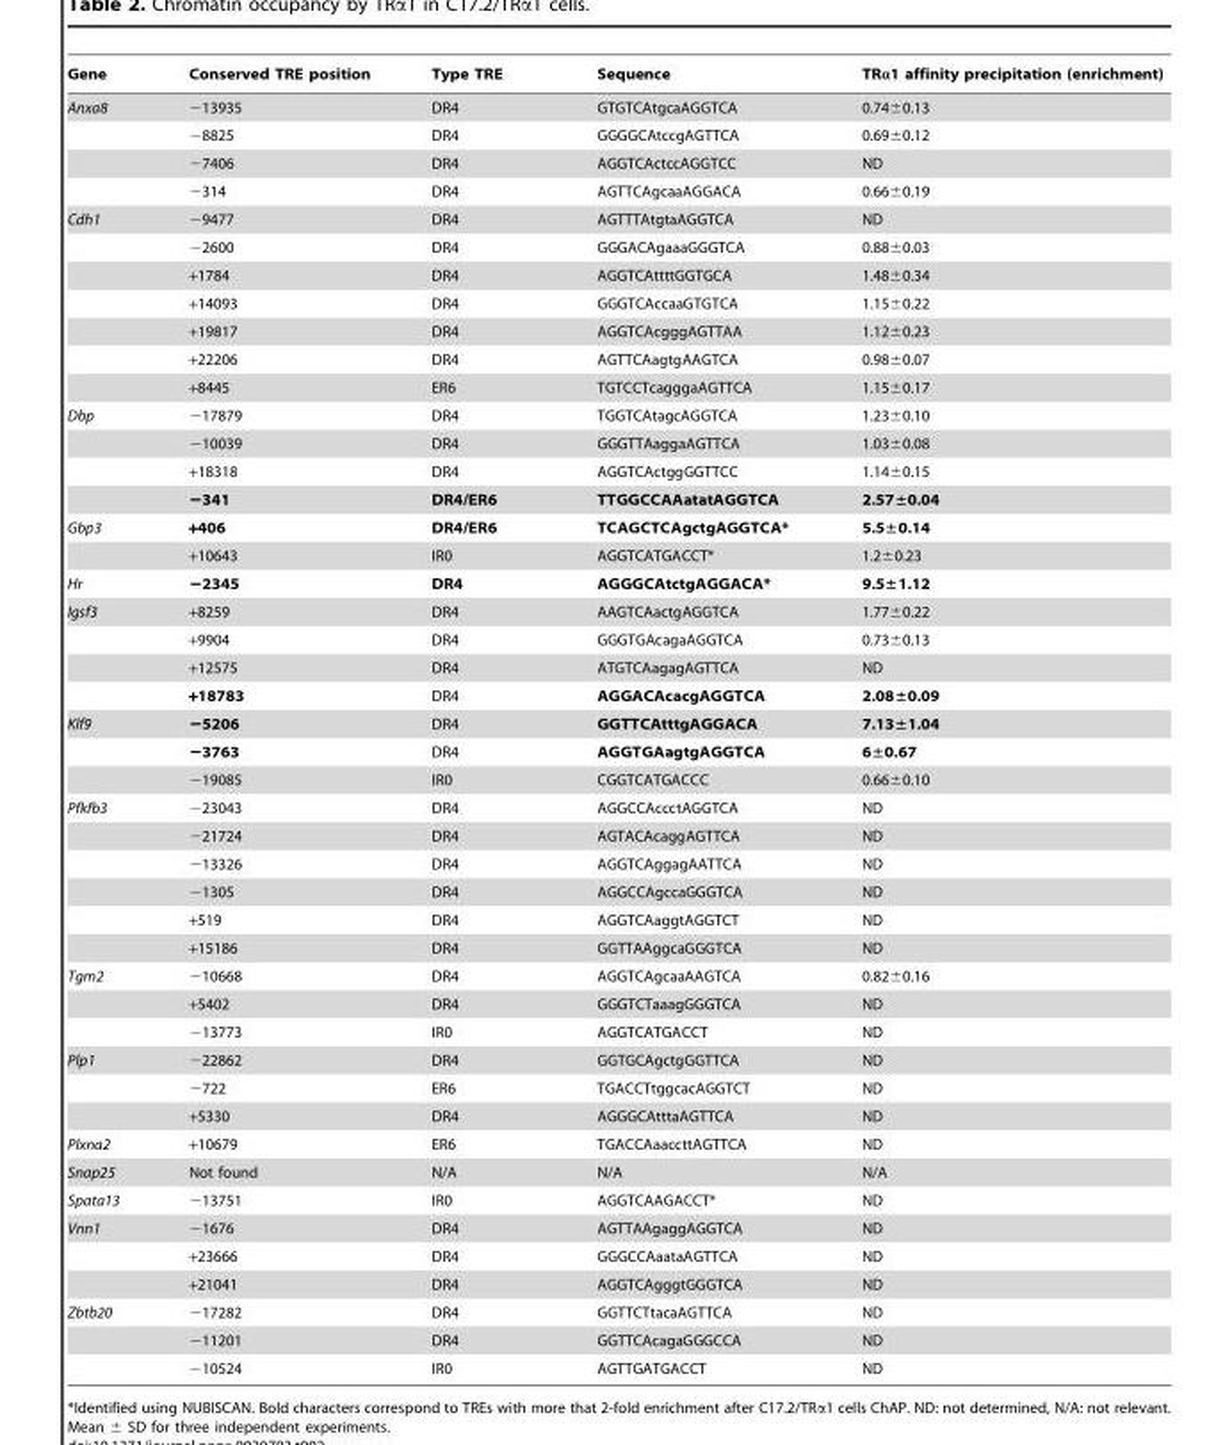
<table><thead><tr><td>Gene</td><td>Conserved TRE position</td><td>Type TRE</td><td>Sequence</td><td>TRα1 affinity precipitation (enrichment)</td></tr></thead><tbody><tr><td rowspan="4">Anxa8</td><td>−13935</td><td>DR4</td><td>GTGTCAtgcaAGGTCA</td><td>0.74±0.13</td></tr><tr><td>−8825</td><td>DR4</td><td>GGGGCAtccgAGTTCA</td><td>0.69±0.12</td></tr><tr><td>−7406</td><td>DR4</td><td>AGGTCActccAGGTCC</td><td>ND</td></tr><tr><td>−314</td><td>DR4</td><td>AGTTCAgcaaAGGACA</td><td>0.66±0.19</td></tr><tr><td rowspan="7">Cdh1</td><td>−9477</td><td>DR4</td><td>AGTTTAtgtaAGGTCA</td><td>ND</td></tr><tr><td>−2600</td><td>DR4</td><td>GGGACAgaaaGGGTCA</td><td>0.88±0.03</td></tr><tr><td>+1784</td><td>DR4</td><td>AGGTCAttttGGTGCA</td><td>1.48±0.34</td></tr><tr><td>+14093</td><td>DR4</td><td>GGGTCAccaaGTGTCA</td><td>1.15±0.22</td></tr><tr><td>+19817</td><td>DR4</td><td>AGGTCAcgggAGTTAA</td><td>1.12±0.23</td></tr><tr><td>+22206</td><td>DR4</td><td>AGTTCAagtgAAGTCA</td><td>0.98±0.07</td></tr><tr><td>+8445</td><td>ER6</td><td>TGTCCTcagggaAGTTCA</td><td>1.15±0.17</td></tr><tr><td rowspan="4">Dbp</td><td>−17879</td><td>DR4</td><td>TGGTCAtagcAGGTCA</td><td>1.23±0.10</td></tr><tr><td>−10039</td><td>DR4</td><td>GGGTTAaggaAGTTCA</td><td>1.03±0.08</td></tr><tr><td>+18318</td><td>DR4</td><td>AGGTCActggGGTTCC</td><td>1.14±0.15</td></tr><tr><td>−341</td><td>DR4/ER6</td><td>TTGGCCAAatatAGGTCA</td><td>2.57±0.04</td></tr><tr><td rowspan="2">Gbp3</td><td>+406</td><td>DR4/ER6</td><td>TCAGCTCAgctgAGGTCA*</td><td>5.5±0.14</td></tr><tr><td>+10643</td><td>IR0</td><td>AGGTCATGACCT*</td><td>1.2±0.23</td></tr><tr><td>Hr</td><td>−2345</td><td>DR4</td><td>AGGGCAtctgAGGACA*</td><td>9.5±1.12</td></tr><tr><td rowspan="4">Igsf3</td><td>+8259</td><td>DR4</td><td>AAGTCAactgAGGTCA</td><td>1.77±0.22</td></tr><tr><td>+9904</td><td>DR4</td><td>GGGTGAcagaAGGTCA</td><td>0.73±0.13</td></tr><tr><td>+12575</td><td>DR4</td><td>ATGTCAagagAGTTCA</td><td>ND</td></tr><tr><td>+18783</td><td>DR4</td><td>AGGACAcacgAGGTCA</td><td>2.08±0.09</td></tr><tr><td rowspan="3">Klf9</td><td>−5206</td><td>DR4</td><td>GGTTCAtttgAGGACA</td><td>7.13±1.04</td></tr><tr><td>−3763</td><td>DR4</td><td>AGGTGAagtgAGGTCA</td><td>6±0.67</td></tr><tr><td>−19085</td><td>IR0</td><td>CGGTCATGACCC</td><td>0.66±0.10</td></tr><tr><td rowspan="6">Pfkfb3</td><td>−23043</td><td>DR4</td><td>AGGCCAccctAGGTCA</td><td>ND</td></tr><tr><td>−21724</td><td>DR4</td><td>AGTACAcaggAGTTCA</td><td>ND</td></tr><tr><td>−13326</td><td>DR4</td><td>AGGTCAggagAATTCA</td><td>ND</td></tr><tr><td>−1305</td><td>DR4</td><td>AGGCCAgccaGGGTCA</td><td>ND</td></tr><tr><td>+519</td><td>DR4</td><td>AGGTCAaggtAGGTCT</td><td>ND</td></tr><tr><td>+15186</td><td>DR4</td><td>GGTTAAggcaGGGTCA</td><td>ND</td></tr><tr><td rowspan="3">Tgm2</td><td>−10668</td><td>DR4</td><td>AGGTCAgcaaAAGTCA</td><td>0.82±0.16</td></tr><tr><td>+5402</td><td>DR4</td><td>GGGTCTaaagGGGTCA</td><td>ND</td></tr><tr><td>−13773</td><td>IR0</td><td>AGGTCATGACCT</td><td>ND</td></tr><tr><td rowspan="3">Plp1</td><td>−22862</td><td>DR4</td><td>GGTGCAgctgGGTTCA</td><td>ND</td></tr><tr><td>−722</td><td>ER6</td><td>TGACCTtggcacAGGTCT</td><td>ND</td></tr><tr><td>+5330</td><td>DR4</td><td>AGGGCAtttaAGTTCA</td><td>ND</td></tr><tr><td>Plxna2</td><td>+10679</td><td>ER6</td><td>TGACCAaaccttAGTTCA</td><td>ND</td></tr><tr><td>Snap25</td><td>Not found</td><td>N/A</td><td>N/A</td><td>N/A</td></tr><tr><td>Spata13</td><td>−13751</td><td>IR0</td><td>AGGTCAAGACCT*</td><td>ND</td></tr><tr><td rowspan="3">Vnn1</td><td>−1676</td><td>DR4</td><td>AGTTAAgaggAGGTCA</td><td>ND</td></tr><tr><td>+23666</td><td>DR4</td><td>GGGCCAaataAGTTCA</td><td>ND</td></tr><tr><td>+21041</td><td>DR4</td><td>AGGTCAgggtGGGTCA</td><td>ND</td></tr><tr><td rowspan="3">Zbtb20</td><td>−17282</td><td>DR4</td><td>GGTTCTtacaAGTTCA</td><td>ND</td></tr><tr><td>−11201</td><td>DR4</td><td>GGTTCAcagaGGGCCA</td><td>ND</td></tr><tr><td>−10524</td><td>IR0</td><td>AGTTGATGACCT</td><td>ND</td></tr></tbody></table>